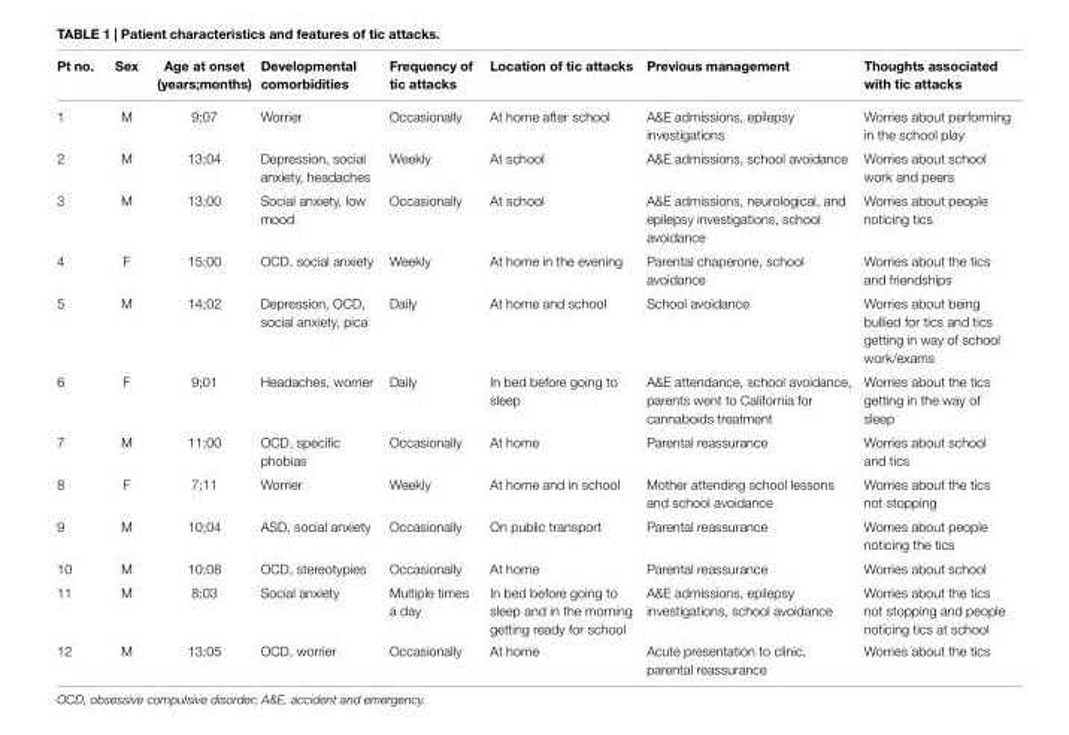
<table><thead><tr><td>pt no.</td><td>sex</td><td>age at onset (years;months)</td><td>Developmental comorbidities</td><td>Frequency of tic attacks</td><td>Location of tic attacks</td><td>previous management</td><td>thoughts associated with tic attacks</td></tr></thead><tbody><tr><td>1</td><td>M</td><td>9;07</td><td>Worrier</td><td>Occasionally</td><td>At home after school</td><td>A&amp;E admissions, epilepsy investigations</td><td>Worries about performing in the school play</td></tr><tr><td>2</td><td>M</td><td>13;04</td><td>Depression, social anxiety, headaches</td><td>Weekly</td><td>At school</td><td>A&amp;E admissions, school avoidance</td><td>Worries about school work and peers</td></tr><tr><td>3</td><td>M</td><td>13;00</td><td>Social anxiety, low mood</td><td>Occasionally</td><td>At school</td><td>A&amp;E admissions, neurological, and epilepsy investigations, school avoidance</td><td>Worries about people noticing tics</td></tr><tr><td>4</td><td>F</td><td>15;00</td><td>OCD, social anxiety</td><td>Weekly</td><td>At home in the evening</td><td>Parental chaperone, school avoidance</td><td>Worries about the tics and friendships</td></tr><tr><td>5</td><td>M</td><td>14;02</td><td>Depression, OCD, social anxiety, pica</td><td>Daily</td><td>At home and school</td><td>School avoidance</td><td>Worries about being bullied for tics and tics getting in way of school work/exams</td></tr><tr><td>6</td><td>F</td><td>9;01</td><td>Headaches, worrier</td><td>Daily</td><td>In bed before going to sleep</td><td>A&amp;E attendance, school avoidance, parents went to California for cannaboids treatment</td><td>Worries about the tics getting in the way of sleep</td></tr><tr><td>7</td><td>M</td><td>11;00</td><td>OCD, specific phobias</td><td>Occasionally</td><td>At home</td><td>Parental reassurance</td><td>Worries about school and tics</td></tr><tr><td>8</td><td>F</td><td>7;11</td><td>Worrier</td><td>Weekly</td><td>At home and in school</td><td>Mother attending school lessons and school avoidance</td><td>Worries about the tics not stopping</td></tr><tr><td>9</td><td>M</td><td>10;04</td><td>ASD, social anxiety</td><td>Occasionally</td><td>On public transport</td><td>Parental reassurance</td><td>Worries about people noticing the tics</td></tr><tr><td>10</td><td>M</td><td>10;08</td><td>OCD, stereotypies</td><td>Occasionally</td><td>At home</td><td>Parental reassurance</td><td>Worries about school</td></tr><tr><td>11</td><td>M</td><td>8;03</td><td>Social anxiety</td><td>Multiple times a day</td><td>In bed before going to sleep and in the morning getting ready for school</td><td>A&amp;E admissions, epilepsy investigations, school avoidance</td><td>Worries about the tics not stopping and people noticing tics at school</td></tr><tr><td>12</td><td>M</td><td>13;05</td><td>OCD, worrier</td><td>Occasionally</td><td>At home</td><td>Acute presentation to clinic, parental reassurance</td><td>Worries about the tics</td></tr></tbody></table>